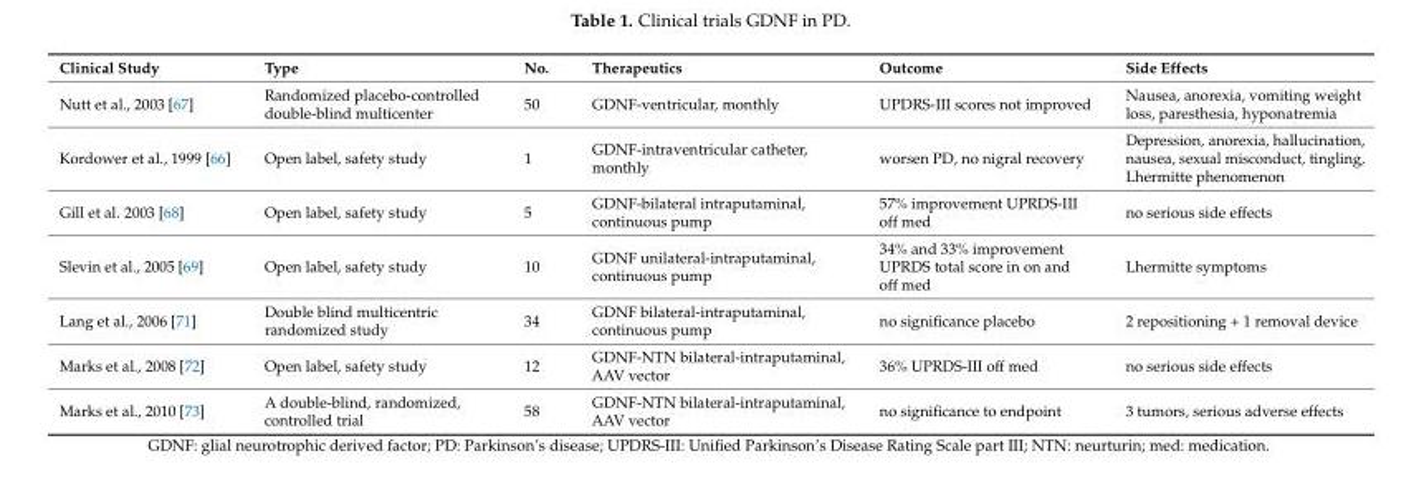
<table><thead><tr><td>Clinical Study</td><td>Type</td><td>No.</td><td>Therapeutics</td><td>Outcome</td><td>Side Effects</td></tr></thead><tbody><tr><td>Nutt et al., 2003 [67]</td><td>Randomized placebo-controlled double-blind multicenter</td><td>50</td><td>GDNF-ventricular, monthly</td><td>UPDRS-III scores not improved</td><td>Nausea, anorexia, vomiting weight loss, paresthesia, hyponatremia</td></tr><tr><td>Kordower et al., 1999 [66]</td><td>Open label, safety study</td><td>1</td><td>GDNF-intraventricular catheter, monthly</td><td>worsen PD, no nigral recovery</td><td>Depression, anorexia, hallucination, nausea, sexual misconduct, tingling, Lhermitte phenomenon</td></tr><tr><td>Gill et al. 2003 [68]</td><td>Open label, safety study</td><td>5</td><td>GDNF-bilateral intraputaminal, continuous pump</td><td>57% improvement UPRDS-III off med</td><td>no serious side effects</td></tr><tr><td>Slevin et al., 2005 [69]</td><td>Open label, safety study</td><td>10</td><td>GDNF unilateral-intraputaminal, continuous pump</td><td>34% and 33% improvement UPRDS total score in on and off med</td><td>Lhermitte symptoms</td></tr><tr><td>Lang et al., 2006 [71]</td><td>Double blind multicentric randomized study</td><td>34</td><td>GDNF bilateral-intraputaminal, continuous pump</td><td>no significance placebo</td><td>2 repositioning + 1 removal device</td></tr><tr><td>Marks et al., 2008 [72]</td><td>Open label, safety study</td><td>12</td><td>GDNF-NTN bilateral-intraputaminal, AAV vector</td><td>36% UPRDS-III off med</td><td>no serious side effects</td></tr><tr><td>Marks et al., 2010 [73]</td><td>A double-blind, randomized, controlled trial</td><td>58</td><td>GDNF-NTN bilateral-intraputaminal, AAV vector</td><td>no significance to endpoint</td><td>3 tumors, serious adverse effects</td></tr></tbody></table>